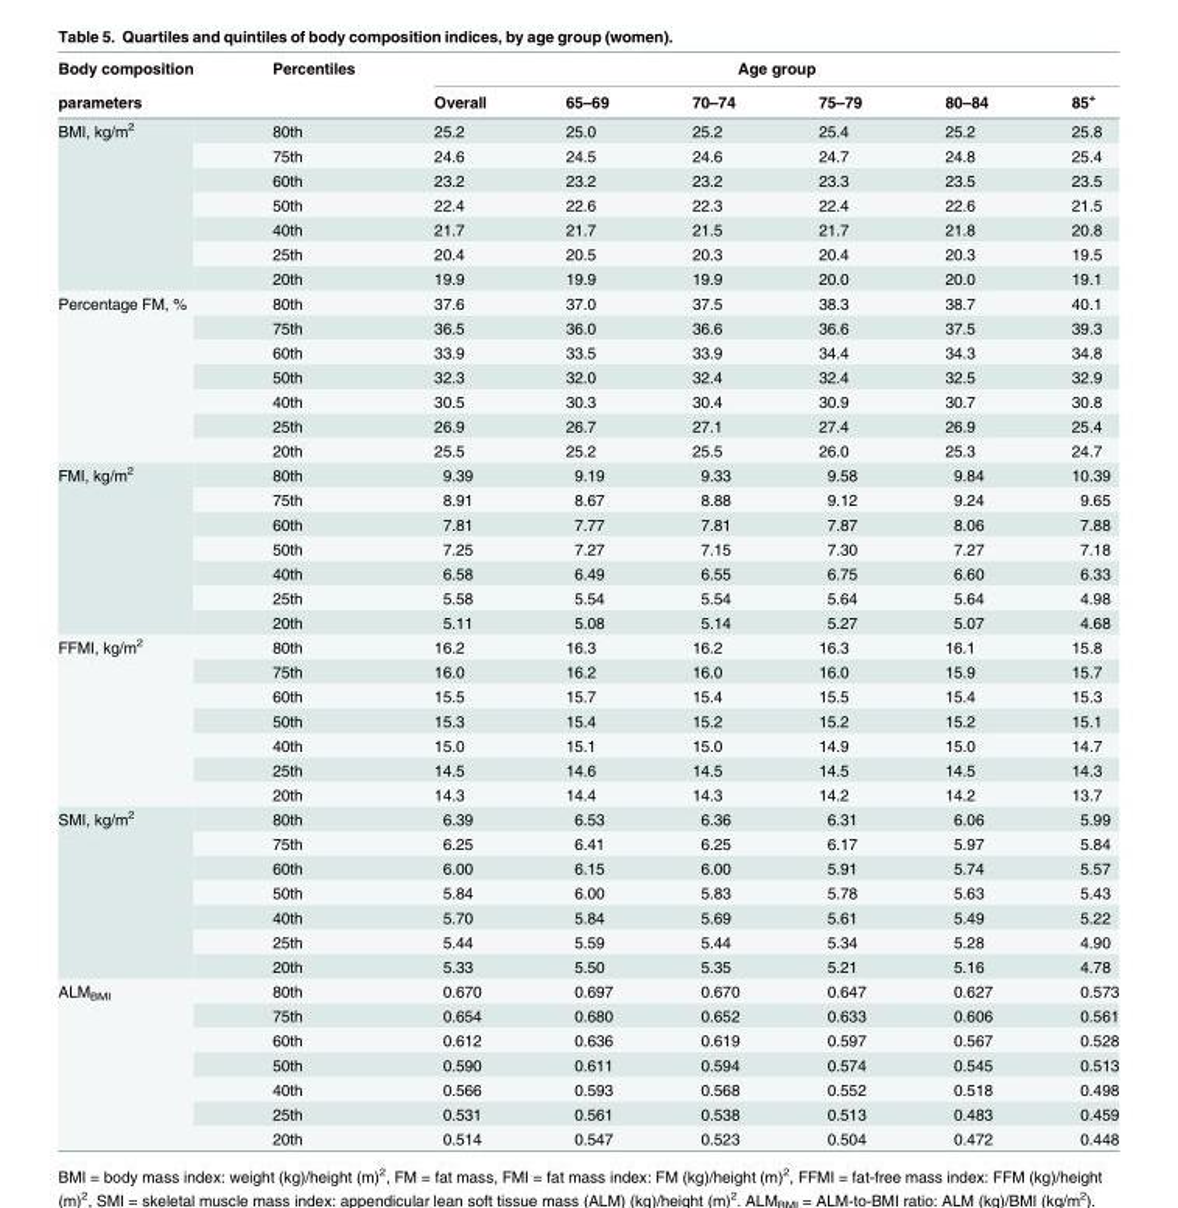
<table><thead><tr><td rowspan="2">Body composition parameters</td><td rowspan="2">Percentiles</td><td colspan="6">Age group</td></tr><tr><td>Overall</td><td>65–69</td><td>70–74</td><td>75–79</td><td>80–84</td><td>85<sup>+</sup></td></tr></thead><tbody><tr><td rowspan="7">BMI, kg/m<sup>2</sup></td><td>80th</td><td>25.2</td><td>25.0</td><td>25.2</td><td>25.4</td><td>25.2</td><td>25.8</td></tr><tr><td>75th</td><td>24.6</td><td>24.5</td><td>24.6</td><td>24.7</td><td>24.8</td><td>25.4</td></tr><tr><td>60th</td><td>23.2</td><td>23.2</td><td>23.2</td><td>23.3</td><td>23.5</td><td>23.5</td></tr><tr><td>50th</td><td>22.4</td><td>22.6</td><td>22.3</td><td>22.4</td><td>22.6</td><td>21.5</td></tr><tr><td>40th</td><td>21.7</td><td>21.7</td><td>21.5</td><td>21.7</td><td>21.8</td><td>20.8</td></tr><tr><td>25th</td><td>20.4</td><td>20.5</td><td>20.3</td><td>20.4</td><td>20.3</td><td>19.5</td></tr><tr><td>20th</td><td>19.9</td><td>19.9</td><td>19.9</td><td>20.0</td><td>20.0</td><td>19.1</td></tr><tr><td rowspan="7">Percentage FM, %</td><td>80th</td><td>37.6</td><td>37.0</td><td>37.5</td><td>38.3</td><td>38.7</td><td>40.1</td></tr><tr><td>75th</td><td>36.5</td><td>36.0</td><td>36.6</td><td>36.6</td><td>37.5</td><td>39.3</td></tr><tr><td>60th</td><td>33.9</td><td>33.5</td><td>33.9</td><td>34.4</td><td>34.3</td><td>34.8</td></tr><tr><td>50th</td><td>32.3</td><td>32.0</td><td>32.4</td><td>32.4</td><td>32.5</td><td>32.9</td></tr><tr><td>40th</td><td>30.5</td><td>30.3</td><td>30.4</td><td>30.9</td><td>30.7</td><td>30.8</td></tr><tr><td>25th</td><td>26.9</td><td>26.7</td><td>27.1</td><td>27.4</td><td>26.9</td><td>25.4</td></tr><tr><td>20th</td><td>25.5</td><td>25.2</td><td>25.5</td><td>26.0</td><td>25.3</td><td>24.7</td></tr><tr><td rowspan="7">FMI, kg/m<sup>2</sup></td><td>80th</td><td>9.39</td><td>9.19</td><td>9.33</td><td>9.58</td><td>9.84</td><td>10.39</td></tr><tr><td>75th</td><td>8.91</td><td>8.67</td><td>8.88</td><td>9.12</td><td>9.24</td><td>9.65</td></tr><tr><td>60th</td><td>7.81</td><td>7.77</td><td>7.81</td><td>7.87</td><td>8.06</td><td>7.88</td></tr><tr><td>50th</td><td>7.25</td><td>7.27</td><td>7.15</td><td>7.30</td><td>7.27</td><td>7.18</td></tr><tr><td>40th</td><td>6.58</td><td>6.49</td><td>6.55</td><td>6.75</td><td>6.60</td><td>6.33</td></tr><tr><td>25th</td><td>5.58</td><td>5.54</td><td>5.54</td><td>5.64</td><td>5.64</td><td>4.98</td></tr><tr><td>20th</td><td>5.11</td><td>5.08</td><td>5.14</td><td>5.27</td><td>5.07</td><td>4.68</td></tr><tr><td rowspan="7">FFMI, kg/m<sup>2</sup></td><td>80th</td><td>16.2</td><td>16.3</td><td>16.2</td><td>16.3</td><td>16.1</td><td>15.8</td></tr><tr><td>75th</td><td>16.0</td><td>16.2</td><td>16.0</td><td>16.0</td><td>15.9</td><td>15.7</td></tr><tr><td>60th</td><td>15.5</td><td>15.7</td><td>15.4</td><td>15.5</td><td>15.4</td><td>15.3</td></tr><tr><td>50th</td><td>15.3</td><td>15.4</td><td>15.2</td><td>15.2</td><td>15.2</td><td>15.1</td></tr><tr><td>40th</td><td>15.0</td><td>15.1</td><td>15.0</td><td>14.9</td><td>15.0</td><td>14.7</td></tr><tr><td>25th</td><td>14.5</td><td>14.6</td><td>14.5</td><td>14.5</td><td>14.5</td><td>14.3</td></tr><tr><td>20th</td><td>14.3</td><td>14.4</td><td>14.3</td><td>14.2</td><td>14.2</td><td>13.7</td></tr><tr><td rowspan="7">SMI, kg/m<sup>2</sup></td><td>80th</td><td>6.39</td><td>6.53</td><td>6.36</td><td>6.31</td><td>6.06</td><td>5.99</td></tr><tr><td>75th</td><td>6.25</td><td>6.41</td><td>6.25</td><td>6.17</td><td>5.97</td><td>5.84</td></tr><tr><td>60th</td><td>6.00</td><td>6.15</td><td>6.00</td><td>5.91</td><td>5.74</td><td>5.57</td></tr><tr><td>50th</td><td>5.84</td><td>6.00</td><td>5.83</td><td>5.78</td><td>5.63</td><td>5.43</td></tr><tr><td>40th</td><td>5.70</td><td>5.84</td><td>5.69</td><td>5.61</td><td>5.49</td><td>5.22</td></tr><tr><td>25th</td><td>5.44</td><td>5.59</td><td>5.44</td><td>5.34</td><td>5.28</td><td>4.90</td></tr><tr><td>20th</td><td>5.33</td><td>5.50</td><td>5.35</td><td>5.21</td><td>5.16</td><td>4.78</td></tr><tr><td rowspan="7">ALM<sub>BMI</sub></td><td>80th</td><td>0.670</td><td>0.697</td><td>0.670</td><td>0.647</td><td>0.627</td><td>0.573</td></tr><tr><td>75th</td><td>0.654</td><td>0.680</td><td>0.652</td><td>0.633</td><td>0.606</td><td>0.561</td></tr><tr><td>60th</td><td>0.612</td><td>0.636</td><td>0.619</td><td>0.597</td><td>0.567</td><td>0.528</td></tr><tr><td>50th</td><td>0.590</td><td>0.611</td><td>0.594</td><td>0.574</td><td>0.545</td><td>0.513</td></tr><tr><td>40th</td><td>0.566</td><td>0.593</td><td>0.568</td><td>0.552</td><td>0.518</td><td>0.498</td></tr><tr><td>25th</td><td>0.531</td><td>0.561</td><td>0.538</td><td>0.513</td><td>0.483</td><td>0.459</td></tr><tr><td>20th</td><td>0.514</td><td>0.547</td><td>0.523</td><td>0.504</td><td>0.472</td><td>0.448</td></tr></tbody></table>